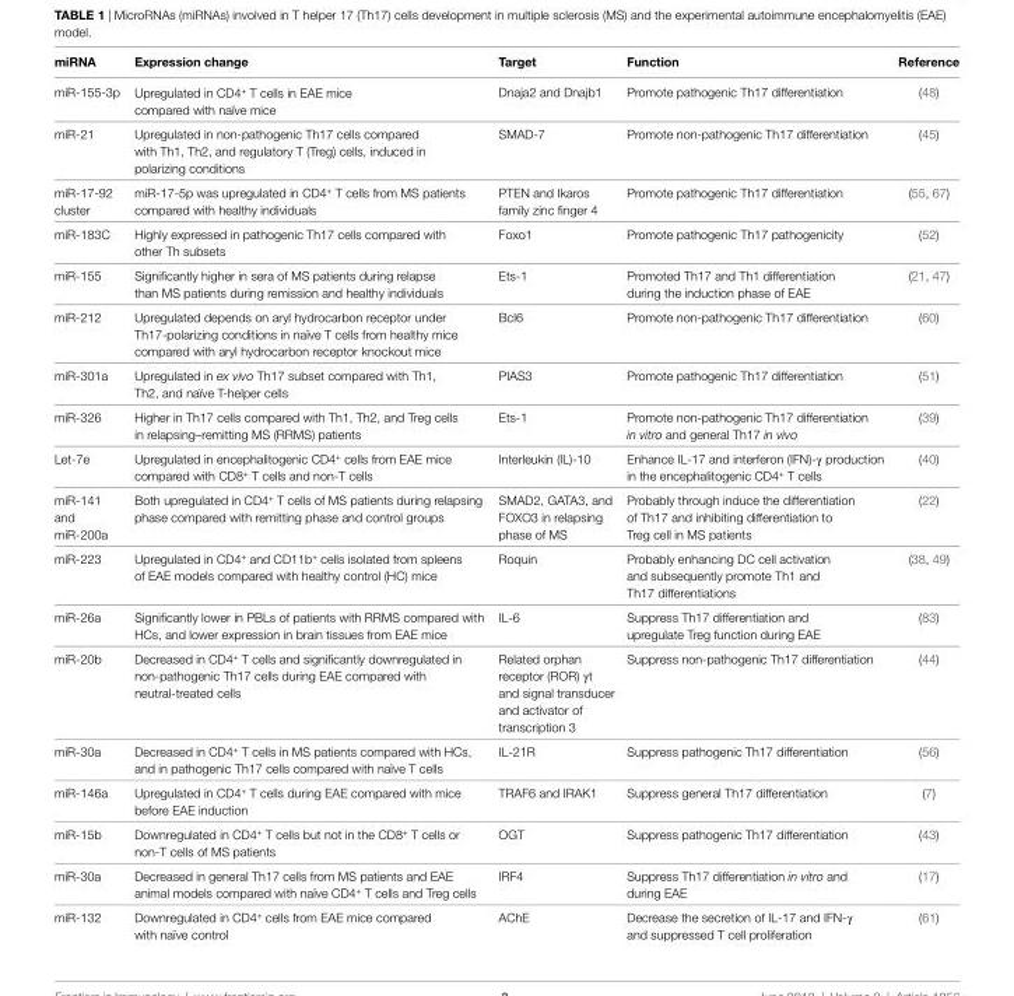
<table><thead><tr><td>miRNA</td><td>expression change</td><td>Target</td><td>Function</td><td>Reference</td></tr></thead><tbody><tr><td>miR-155-3p</td><td>Upregulated in CD4<sup>+</sup> T cells in EAE mice compared with naïve mice</td><td>Dnaja2 and Dnajb1</td><td>Promote pathogenic Th17 differentiation</td><td>(48)</td></tr><tr><td>miR-21</td><td>Upregulated in non-pathogenic Th17 cells compared with Th1, Th2, and regulatory T (Treg) cells, induced in polarizing conditions</td><td>SMAD-7</td><td>Promote non-pathogenic Th17 differentiation</td><td>(45)</td></tr><tr><td>miR-17-92 cluster</td><td>miR-17-5p was upregulated in CD4<sup>+</sup> T cells from MS patients compared with healthy individuals</td><td>PTEN and Ikaros family zinc finger 4</td><td>Promote pathogenic Th17 differentiation</td><td>(55, 67)</td></tr><tr><td>miR-183C</td><td>Highly expressed in pathogenic Th17 cells compared with other Th subsets</td><td>Foxo1</td><td>Promote pathogenic Th17 pathogenicity</td><td>(52)</td></tr><tr><td>miR-155</td><td>Significantly higher in sera of MS patients during relapse than MS patients during remission and healthy individuals</td><td>Ets-1</td><td>Promoted Th17 and Th1 differentiation during the induction phase of EAE</td><td>(21, 47)</td></tr><tr><td>miR-212</td><td>Upregulated depends on aryl hydrocarbon receptor under Th17-polarizing conditions in naïve T cells from healthy mice compared with aryl hydrocarbon receptor knockout mice</td><td>Bcl6</td><td>Promote non-pathogenic Th17 differentiation</td><td>(60)</td></tr><tr><td>miR-301a</td><td>Upregulated in ex vivo Th17 subset compared with Th1, Th2, and naïve T-helper cells</td><td>PIAS3</td><td>Promote pathogenic Th17 differentiation</td><td>(51)</td></tr><tr><td>miR-326</td><td>Higher in Th17 cells compared with Th1, Th2, and Treg cells in relapsing–remitting MS (RRMS) patients</td><td>Ets-1</td><td>Promote non-pathogenic Th17 differentiation in vitro and general Th17 in vivo</td><td>(39)</td></tr><tr><td>Let-7e</td><td>Upregulated in encephalitogenic CD4<sup>+</sup> cells from EAE mice compared with CD8<sup>+</sup> T cells and non-T cells</td><td>Interleukin (IL)-10</td><td>Enhance IL-17 and interferon (IFN)-γ production in the encephalitogenic CD4<sup>+</sup> T cells</td><td>(40)</td></tr><tr><td>miR-141 and miR-200a</td><td>Both upregulated in CD4<sup>+</sup> T cells of MS patients during relapsing phase compared with remitting phase and control groups</td><td>SMAD2, GATA3, and FOXO3 in relapsing phase of MS</td><td>Probably through induce the differentiation of Th17 and inhibiting differentiation to Treg cell in MS patients</td><td>(22)</td></tr><tr><td>miR-223</td><td>Upregulated in CD4<sup>+</sup> and CD11b<sup>+</sup> cells isolated from spleens of EAE models compared with healthy control (HC) mice</td><td>Roquin</td><td>Probably enhancing DC cell activation and subsequently promote Th1 and Th17 differentiations</td><td>(38, 49)</td></tr><tr><td>miR-26a</td><td>Significantly lower in PBLs of patients with RRMS compared with HCs, and lower expression in brain tissues from EAE mice</td><td>IL-6</td><td>Suppress Th17 differentiation and upregulate Treg function during EAE</td><td>(83)</td></tr><tr><td>miR-20b</td><td>Decreased in CD4<sup>+</sup> T cells and significantly downregulated in non-pathogenic Th17 cells during EAE compared with neutral-treated cells</td><td>Related orphan receptor (ROR) γt and signal transducer and activator of transcription 3</td><td>Suppress non-pathogenic Th17 differentiation</td><td>(44)</td></tr><tr><td>miR-30a</td><td>Decreased in CD4<sup>+</sup> T cells in MS patients compared with HCs, and in pathogenic Th17 cells compared with naïve T cells</td><td>IL-21R</td><td>Suppress pathogenic Th17 differentiation</td><td>(56)</td></tr><tr><td>miR-146a</td><td>Upregulated in CD4<sup>+</sup> T cells during EAE compared with mice before EAE induction</td><td>TRAF6 and IRAK1</td><td>Suppress general Th17 differentiation</td><td>(7)</td></tr><tr><td>miR-15b</td><td>Downregulated in CD4<sup>+</sup> T cells but not in the CD8<sup>+</sup> T cells or non-T cells of MS patients</td><td>OGT</td><td>Suppress pathogenic Th17 differentiation</td><td>(43)</td></tr><tr><td>miR-30a</td><td>Decreased in general Th17 cells from MS patients and EAE animal models compared with naïve CD4<sup>+</sup> T cells and Treg cells</td><td>IRF4</td><td>Suppress Th17 differentiation in vitro and during EAE</td><td>(17)</td></tr><tr><td>miR-132</td><td>Downregulated in CD4<sup>+</sup> cells from EAE mice compared with naïve control</td><td>AChE</td><td>Decrease the secretion of IL-17 and IFN-γ and suppressed T cell proliferation</td><td>(61)</td></tr></tbody></table>